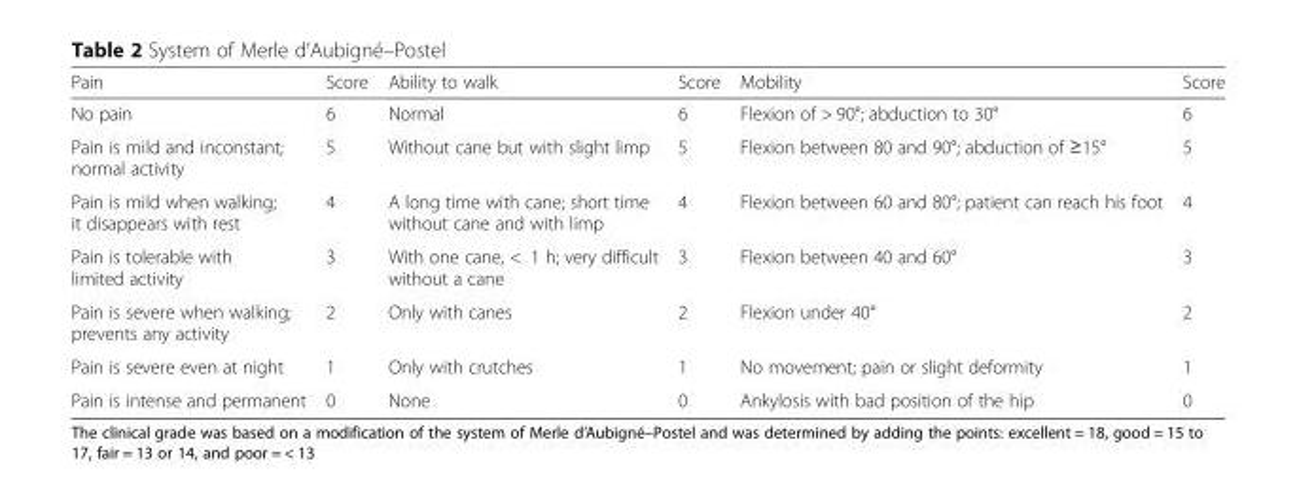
<table><thead><tr><td>Pain</td><td>Score</td><td>Ability to walk</td><td>Score</td><td>Mobility</td><td>Score</td></tr></thead><tbody><tr><td>No pain</td><td>6</td><td>Normal</td><td>6</td><td>Flexion of &gt; 90°; abduction to 30°</td><td>6</td></tr><tr><td>Pain is mild and inconstant; normal activity</td><td>5</td><td>Without cane but with slight limp</td><td>5</td><td>Flexion between 80 and 90°; abduction of ≥15°</td><td>5</td></tr><tr><td>Pain is mild when walking; it disappears with rest</td><td>4</td><td>A long time with cane; short time without cane and with limp</td><td>4</td><td>Flexion between 60 and 80°; patient can reach his foot</td><td>4</td></tr><tr><td>Pain is tolerable with limited activity</td><td>3</td><td>With one cane, &lt; 1 h; very difficult without a cane</td><td>3</td><td>Flexion between 40 and 60°</td><td>3</td></tr><tr><td>Pain is severe when walking; prevents any activity</td><td>2</td><td>Only with canes</td><td>2</td><td>Flexion under 40°</td><td>2</td></tr><tr><td>Pain is severe even at night</td><td>1</td><td>Only with crutches</td><td>1</td><td>No movement; pain or slight deformity</td><td>1</td></tr><tr><td>Pain is intense and permanent</td><td>0</td><td>None</td><td>0</td><td>Ankylosis with bad position of the hip</td><td>0</td></tr></tbody></table>